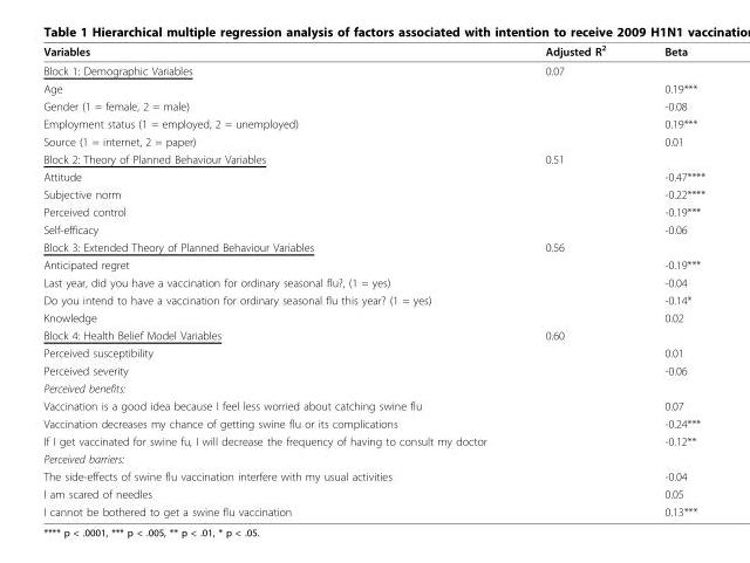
<table><thead><tr><td>Variables</td><td>Adjusted R<sup>2</sup></td><td>Beta</td></tr></thead><tbody><tr><td>Block 1: Demographic Variables</td><td>0.07</td><td></td></tr><tr><td>Age</td><td></td><td>0.19***</td></tr><tr><td>Gender (1 = female, 2 = male)</td><td></td><td>-0.08</td></tr><tr><td>Employment status (1 = employed, 2 = unemployed)</td><td></td><td>0.19***</td></tr><tr><td>Source (1 = internet, 2 = paper)</td><td></td><td>0.01</td></tr><tr><td>Block 2: Theory of Planned Behaviour Variables</td><td>0.51</td><td></td></tr><tr><td>Attitude</td><td></td><td>-0.47****</td></tr><tr><td>Subjective norm</td><td></td><td>-0.22****</td></tr><tr><td>Perceived control</td><td></td><td>-0.19***</td></tr><tr><td>Self-efficacy</td><td></td><td>-0.06</td></tr><tr><td>Block 3: Extended Theory of Planned Behaviour Variables</td><td>0.56</td><td></td></tr><tr><td>Anticipated regret</td><td></td><td>-0.19***</td></tr><tr><td>Last year, did you have a vaccination for ordinary seasonal flu?, (1 = yes)</td><td></td><td>-0.04</td></tr><tr><td>Do you intend to have a vaccination for ordinary seasonal flu this year? (1 = yes)</td><td></td><td>-0.14*</td></tr><tr><td>Knowledge</td><td></td><td>0.02</td></tr><tr><td>Block 4: Health Belief Model Variables</td><td>0.60</td><td></td></tr><tr><td>Perceived susceptibility</td><td></td><td>0.01</td></tr><tr><td>Perceived severity</td><td></td><td>-0.06</td></tr><tr><td colspan="3">Perceived benefits:</td></tr><tr><td>Vaccination is a good idea because I feel less worried about catching swine flu</td><td></td><td>0.07</td></tr><tr><td>Vaccination decreases my chance of getting swine flu or its complications</td><td></td><td>-0.24***</td></tr><tr><td>If I get vaccinated for swine fu, I will decrease the frequency of having to consult my doctor</td><td></td><td>-0.12**</td></tr><tr><td colspan="3">Perceived barriers:</td></tr><tr><td>The side-effects of swine flu vaccination interfere with my usual activities</td><td></td><td>-0.04</td></tr><tr><td>I am scared of needles</td><td></td><td>0.05</td></tr><tr><td>I cannot be bothered to get a swine flu vaccination</td><td></td><td>0.13***</td></tr></tbody></table>